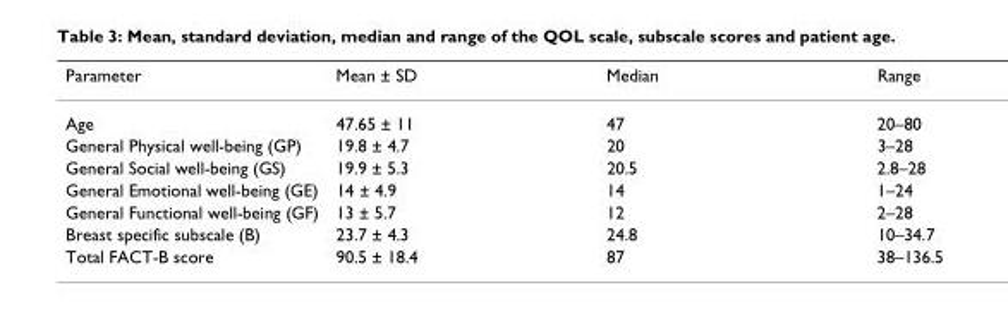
<table><thead><tr><td>Parameter</td><td>Mean ± SD</td><td>Median</td><td>Range</td></tr></thead><tbody><tr><td>Age</td><td>47.65 ± 11</td><td>47</td><td>20–80</td></tr><tr><td>General Physical well-being (GP)</td><td>19.8 ± 4.7</td><td>20</td><td>3–28</td></tr><tr><td>General Social well-being (GS)</td><td>19.9 ± 5.3</td><td>20.5</td><td>2.8–28</td></tr><tr><td>General Emotional well-being (GE)</td><td>14 ± 4.9</td><td>14</td><td>1–24</td></tr><tr><td>General Functional well-being (GF)</td><td>13 ± 5.7</td><td>12</td><td>2–28</td></tr><tr><td>Breast specific subscale (B)</td><td>23.7 ± 4.3</td><td>24.8</td><td>10–34.7</td></tr><tr><td>Total FACT-B score</td><td>90.5 ± 18.4</td><td>87</td><td>38–136.5</td></tr></tbody></table>